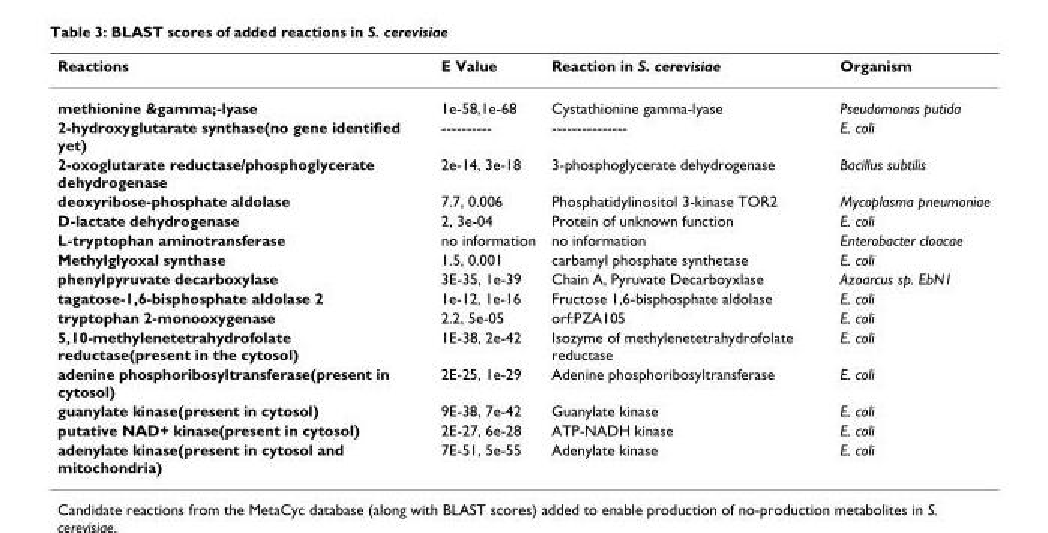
<table><thead><tr><td>Reactions</td><td>E Value</td><td>Reaction in S. cerevisiae</td><td>Organism</td></tr></thead><tbody><tr><td>methionine &amp;gamma;-lyase</td><td>1e-58,1e-68</td><td>Cystathionine gamma-lyase</td><td>Pseudomonas putida</td></tr><tr><td>2-hydroxyglutarate synthase(no gene identified yet)</td><td>----------</td><td>---------------</td><td>E. coli</td></tr><tr><td>2-oxoglutarate reductase/phosphoglycerate dehydrogenase</td><td>2e-14, 3e-18</td><td>3-phosphoglycerate dehydrogenase</td><td>Bacillus subtilis</td></tr><tr><td>deoxyribose-phosphate aldolase</td><td>7.7, 0.006</td><td>Phosphatidylinositol 3-kinase TOR2</td><td>Mycoplasma pneumoniae</td></tr><tr><td>D-lactate dehydrogenase</td><td>2, 3e-04</td><td>Protein of unknown function</td><td>E. coli</td></tr><tr><td>L-tryptophan aminotransferase</td><td>no information</td><td>no information</td><td>Enterobacter cloacae</td></tr><tr><td>Methylglyoxal synthase</td><td>1.5, 0.001</td><td>carbamyl phosphate synthetase</td><td>E. coli</td></tr><tr><td>phenylpyruvate decarboxylase</td><td>3E-35, 1e-39</td><td>Chain A, Pyruvate Decarboyxlase</td><td>Azoarcus sp. EbN1</td></tr><tr><td>tagatose-1,6-bisphosphate aldolase 2</td><td>1e-12, 1e-16</td><td>Fructose 1,6-bisphosphate aldolase</td><td>E. coli</td></tr><tr><td>tryptophan 2-monooxygenase</td><td>2.2, 5e-05</td><td>orf:PZA105</td><td>E. coli</td></tr><tr><td>5,10-methylenetetrahydrofolate reductase(present in the cytosol)</td><td>1E-38, 2e-42</td><td>Isozyme of methylenetetrahydrofolate reductase</td><td>E. coli</td></tr><tr><td>adenine phosphoribosyltransferase(present in cytosol)</td><td>2E-25, 1e-29</td><td>Adenine phosphoribosyltransferase</td><td>E. coli</td></tr><tr><td>guanylate kinase(present in cytosol)</td><td>9E-38, 7e-42</td><td>Guanylate kinase</td><td>E. coli</td></tr><tr><td>putative NAD+ kinase(present in cytosol)</td><td>2E-27, 6e-28</td><td>ATP-NADH kinase</td><td>E. coli</td></tr><tr><td>adenylate kinase(present in cytosol and mitochondria)</td><td>7E-51, 5e-55</td><td>Adenylate kinase</td><td>E. coli</td></tr></tbody></table>